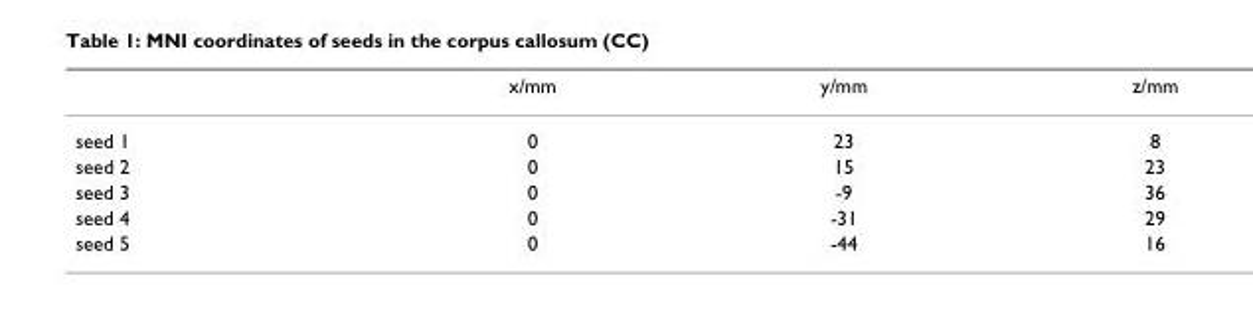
<table><thead><tr><td></td><td>x/mm</td><td>y/mm</td><td>z/mm</td></tr></thead><tbody><tr><td>seed 1</td><td>0</td><td>23</td><td>8</td></tr><tr><td>seed 2</td><td>0</td><td>15</td><td>23</td></tr><tr><td>seed 3</td><td>0</td><td>-9</td><td>36</td></tr><tr><td>seed 4</td><td>0</td><td>-31</td><td>29</td></tr><tr><td>seed 5</td><td>0</td><td>-44</td><td>16</td></tr></tbody></table>